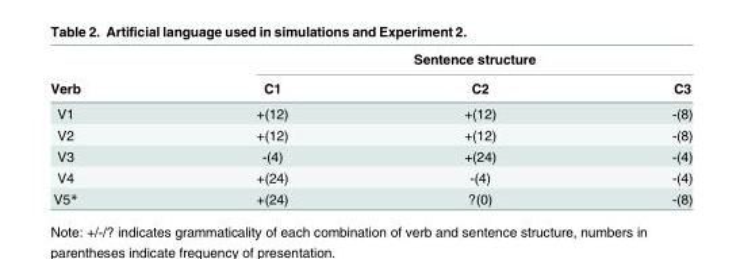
<table><thead><tr><td rowspan="2">Verb</td><td colspan="3">Sentence structure</td></tr><tr><td>C1</td><td>C2</td><td>C3</td></tr></thead><tbody><tr><td>V1</td><td>+(12)</td><td>+(12)</td><td>-(8)</td></tr><tr><td>V2</td><td>+(12)</td><td>+(12)</td><td>-(8)</td></tr><tr><td>V3</td><td>-(4)</td><td>+(24)</td><td>-(4)</td></tr><tr><td>V4</td><td>+(24)</td><td>-(4)</td><td>-(4)</td></tr><tr><td>V5*</td><td>+(24)</td><td>?(0)</td><td>-(8)</td></tr></tbody></table>